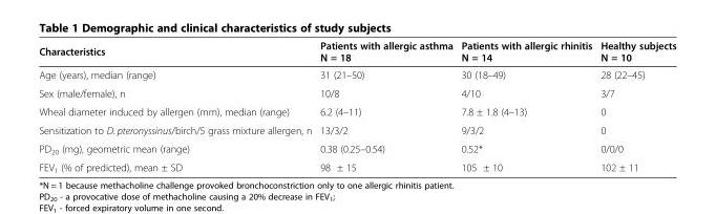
<table><thead><tr><td>Characteristics</td><td>Patients with allergic asthma N = 18</td><td>Patients with allergic rhinitis N = 14</td><td>Healthy subjects N = 10</td></tr></thead><tbody><tr><td>Age (years), median (range)</td><td>31 (21–50)</td><td>30 (18–49)</td><td>28 (22–45)</td></tr><tr><td>Sex (male/female), n</td><td>10/8</td><td>4/10</td><td>3/7</td></tr><tr><td>Wheal diameter induced by allergen (mm), median (range)</td><td>6.2 (4–11)</td><td>7.8 ± 1.8 (4–13)</td><td>0</td></tr><tr><td>Sensitization to D. pteronyssinus/birch/5 grass mixture allergen, n</td><td>13/3/2</td><td>9/3/2</td><td>0</td></tr><tr><td>PD<sub>20</sub> (mg), geometric mean (range)</td><td>0.38 (0.25–0.54)</td><td>0.52*</td><td>0/0/0</td></tr><tr><td>FEV<sub>1</sub> (% of predicted), mean ± SD</td><td>98 ± 15</td><td>105 ± 10</td><td>102 ± 11</td></tr></tbody></table>